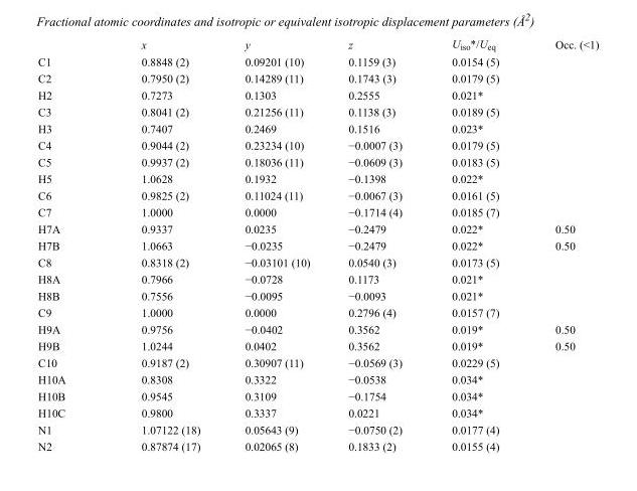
<table><thead><tr><td></td><td>x</td><td>y</td><td>z</td><td>U<sub>iso</sub>*/U<sub>eq</sub></td><td>Occ. (&lt;1)</td></tr></thead><tbody><tr><td>C1</td><td>0.8848 (2)</td><td>0.09201 (10)</td><td>0.1159 (3)</td><td>0.0154 (5)</td><td></td></tr><tr><td>C2</td><td>0.7950 (2)</td><td>0.14289 (11)</td><td>0.1743 (3)</td><td>0.0179 (5)</td><td></td></tr><tr><td>H2</td><td>0.7273</td><td>0.1303</td><td>0.2555</td><td>0.021*</td><td></td></tr><tr><td>C3</td><td>0.8041 (2)</td><td>0.21256 (11)</td><td>0.1138 (3)</td><td>0.0189 (5)</td><td></td></tr><tr><td>H3</td><td>0.7407</td><td>0.2469</td><td>0.1516</td><td>0.023*</td><td></td></tr><tr><td>C4</td><td>0.9044 (2)</td><td>0.23234 (10)</td><td>−0.0007 (3)</td><td>0.0179 (5)</td><td></td></tr><tr><td>C5</td><td>0.9937 (2)</td><td>0.18036 (11)</td><td>−0.0609 (3)</td><td>0.0183 (5)</td><td></td></tr><tr><td>H5</td><td>1.0628</td><td>0.1932</td><td>−0.1398</td><td>0.022*</td><td></td></tr><tr><td>C6</td><td>0.9825 (2)</td><td>0.11024 (11)</td><td>−0.0067 (3)</td><td>0.0161 (5)</td><td></td></tr><tr><td>C7</td><td>1.0000</td><td>0.0000</td><td>−0.1714 (4)</td><td>0.0185 (7)</td><td></td></tr><tr><td>H7A</td><td>0.9337</td><td>0.0235</td><td>−0.2479</td><td>0.022*</td><td>0.50</td></tr><tr><td>H7B</td><td>1.0663</td><td>−0.0235</td><td>−0.2479</td><td>0.022*</td><td>0.50</td></tr><tr><td>C8</td><td>0.8318 (2)</td><td>−0.03101 (10)</td><td>0.0540 (3)</td><td>0.0173 (5)</td><td></td></tr><tr><td>H8A</td><td>0.7966</td><td>−0.0728</td><td>0.1173</td><td>0.021*</td><td></td></tr><tr><td>H8B</td><td>0.7556</td><td>−0.0095</td><td>−0.0093</td><td>0.021*</td><td></td></tr><tr><td>C9</td><td>1.0000</td><td>0.0000</td><td>0.2796 (4)</td><td>0.0157 (7)</td><td></td></tr><tr><td>H9A</td><td>0.9756</td><td>−0.0402</td><td>0.3562</td><td>0.019*</td><td>0.50</td></tr><tr><td>H9B</td><td>1.0244</td><td>0.0402</td><td>0.3562</td><td>0.019*</td><td>0.50</td></tr><tr><td>C10</td><td>0.9187 (2)</td><td>0.30907 (11)</td><td>−0.0569 (3)</td><td>0.0229 (5)</td><td></td></tr><tr><td>H10A</td><td>0.8308</td><td>0.3322</td><td>−0.0538</td><td>0.034*</td><td></td></tr><tr><td>H10B</td><td>0.9545</td><td>0.3109</td><td>−0.1754</td><td>0.034*</td><td></td></tr><tr><td>H10C</td><td>0.9800</td><td>0.3337</td><td>0.0221</td><td>0.034*</td><td></td></tr><tr><td>N1</td><td>1.07122 (18)</td><td>0.05643 (9)</td><td>−0.0750 (2)</td><td>0.0177 (4)</td><td></td></tr><tr><td>N2</td><td>0.87874 (17)</td><td>0.02065 (8)</td><td>0.1833 (2)</td><td>0.0155 (4)</td><td></td></tr></tbody></table>